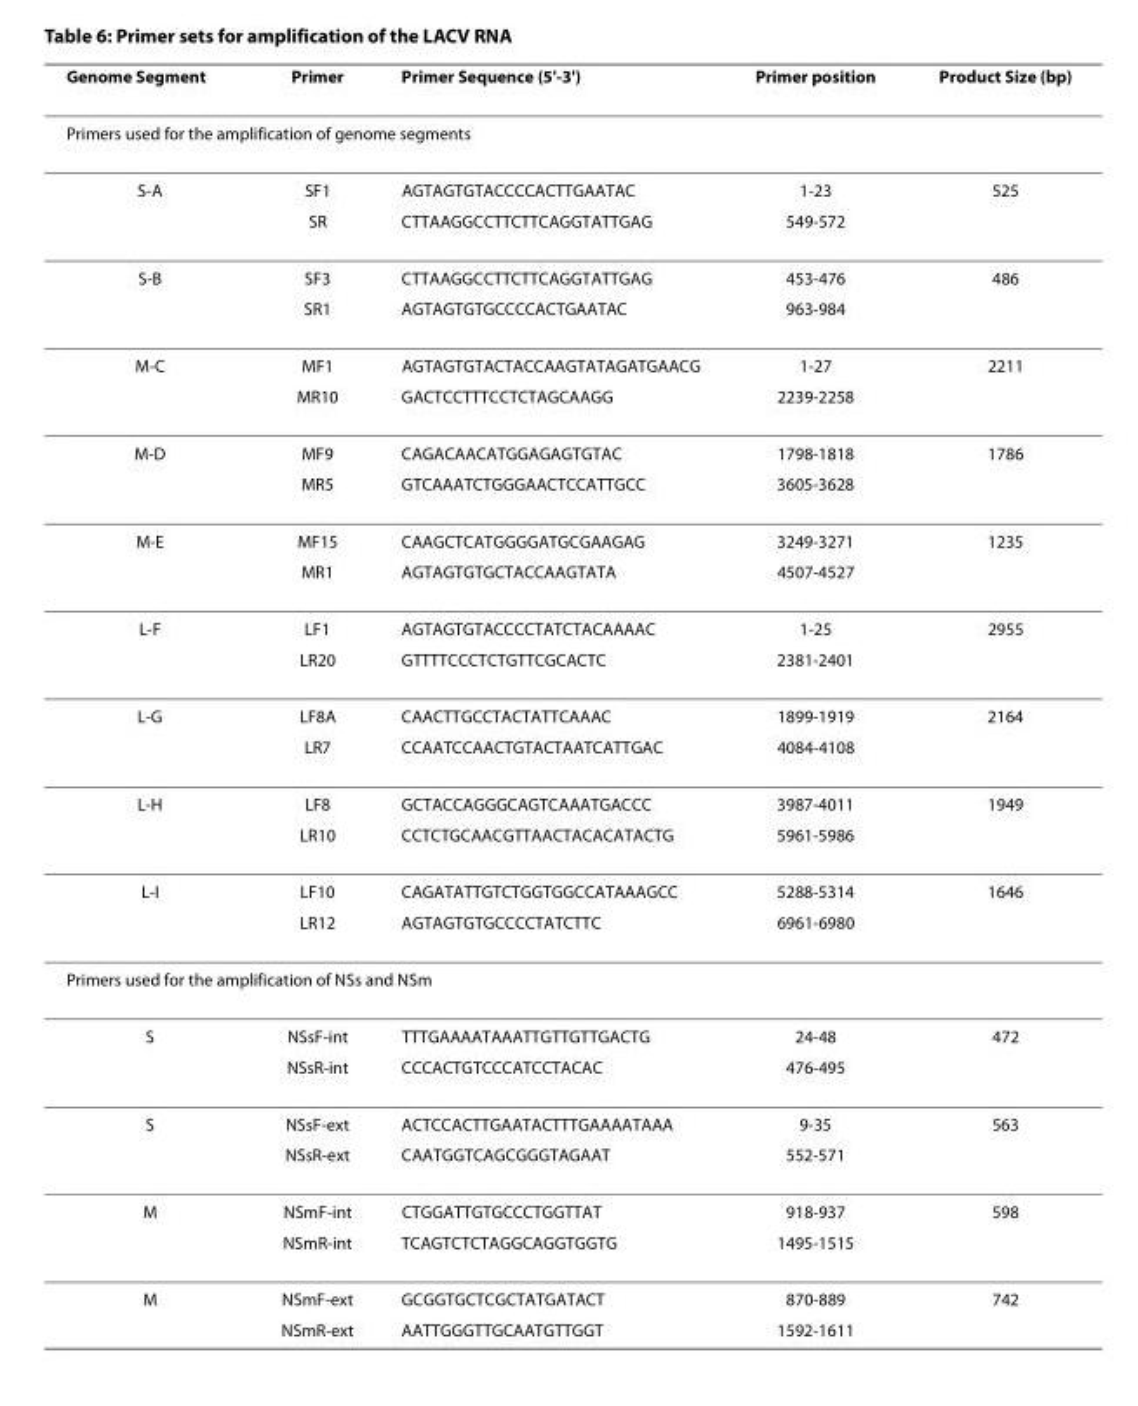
<table><thead><tr><td>Genome Segment</td><td>Primer</td><td>Primer Sequence (5&#x27;-3&#x27;)</td><td>Primer position</td><td>Product Size (bp)</td></tr></thead><tbody><tr><td colspan="5">Primers used for the amplification of genome segments</td></tr><tr><td rowspan="2">S-A</td><td>SF1</td><td>AGTAGTGTACCCCACTTGAATAC</td><td>1-23</td><td>525</td></tr><tr><td>SR</td><td>CTTAAGGCCTTCTTCAGGTATTGAG</td><td>549-572</td><td></td></tr><tr><td rowspan="2">S-B</td><td>SF3</td><td>CTTAAGGCCTTCTTCAGGTATTGAG</td><td>453-476</td><td>486</td></tr><tr><td>SR1</td><td>AGTAGTGTGCCCCACTGAATAC</td><td>963-984</td><td></td></tr><tr><td rowspan="2">M-C</td><td>MF1</td><td>AGTAGTGTACTACCAAGTATAGATGAACG</td><td>1-27</td><td>2211</td></tr><tr><td>MR10</td><td>GACTCCTTTCCTCTAGCAAGG</td><td>2239-2258</td><td></td></tr><tr><td rowspan="2">M-D</td><td>MF9</td><td>CAGACAACATGGAGAGTGTAC</td><td>1798-1818</td><td>1786</td></tr><tr><td>MR5</td><td>GTCAAATCTGGGAACTCCATTGCC</td><td>3605-3628</td><td></td></tr><tr><td rowspan="2">M-E</td><td>MF15</td><td>CAAGCTCATGGGGATGCGAAGAG</td><td>3249-3271</td><td>1235</td></tr><tr><td>MR1</td><td>AGTAGTGTGCTACCAAGTATA</td><td>4507-4527</td><td></td></tr><tr><td rowspan="2">L-F</td><td>LF1</td><td>AGTAGTGTACCCCTATCTACAAAAC</td><td>1-25</td><td>2955</td></tr><tr><td>LR20</td><td>GTTTTCCCTCTGTTCGCACTC</td><td>2381-2401</td><td></td></tr><tr><td rowspan="2">L-G</td><td>LF8A</td><td>CAACTTGCCTACTATTCAAAC</td><td>1899-1919</td><td>2164</td></tr><tr><td>LR7</td><td>CCAATCCAACTGTACTAATCATTGAC</td><td>4084-4108</td><td></td></tr><tr><td rowspan="2">L-H</td><td>LF8</td><td>GCTACCAGGGCAGTCAAATGACCC</td><td>3987-4011</td><td>1949</td></tr><tr><td>LR10</td><td>CCTCTGCAACGTTAACTACACATACTG</td><td>5961-5986</td><td></td></tr><tr><td rowspan="2">L-I</td><td>LF10</td><td>CAGATATTGTCTGGTGGCCATAAAGCC</td><td>5288-5314</td><td>1646</td></tr><tr><td>LR12</td><td>AGTAGTGTGCCCCTATCTTC</td><td>6961-6980</td><td></td></tr><tr><td colspan="5">Primers used for the amplification of NSs and NSm</td></tr><tr><td rowspan="2">S</td><td>NSsF-int</td><td>TTTGAAAATAAATTGTTGTTGACTG</td><td>24-48</td><td>472</td></tr><tr><td>NSsR-int</td><td>CCCACTGTCCCATCCTACAC</td><td>476-495</td><td></td></tr><tr><td rowspan="2">S</td><td>NSsF-ext</td><td>ACTCCACTTGAATACTTTGAAAATAAA</td><td>9-35</td><td>563</td></tr><tr><td>NSsR-ext</td><td>CAATGGTCAGCGGGTAGAAT</td><td>552-571</td><td></td></tr><tr><td rowspan="2">M</td><td>NSmF-int</td><td>CTGGATTGTGCCCTGGTTAT</td><td>918-937</td><td>598</td></tr><tr><td>NSmR-int</td><td>TCAGTCTCTAGGCAGGTGGTG</td><td>1495-1515</td><td></td></tr><tr><td rowspan="2">M</td><td>NSmF-ext</td><td>GCGGTGCTCGCTATGATACT</td><td>870-889</td><td>742</td></tr><tr><td>NSmR-ext</td><td>AATTGGGTTGCAATGTTGGT</td><td>1592-1611</td><td></td></tr></tbody></table>